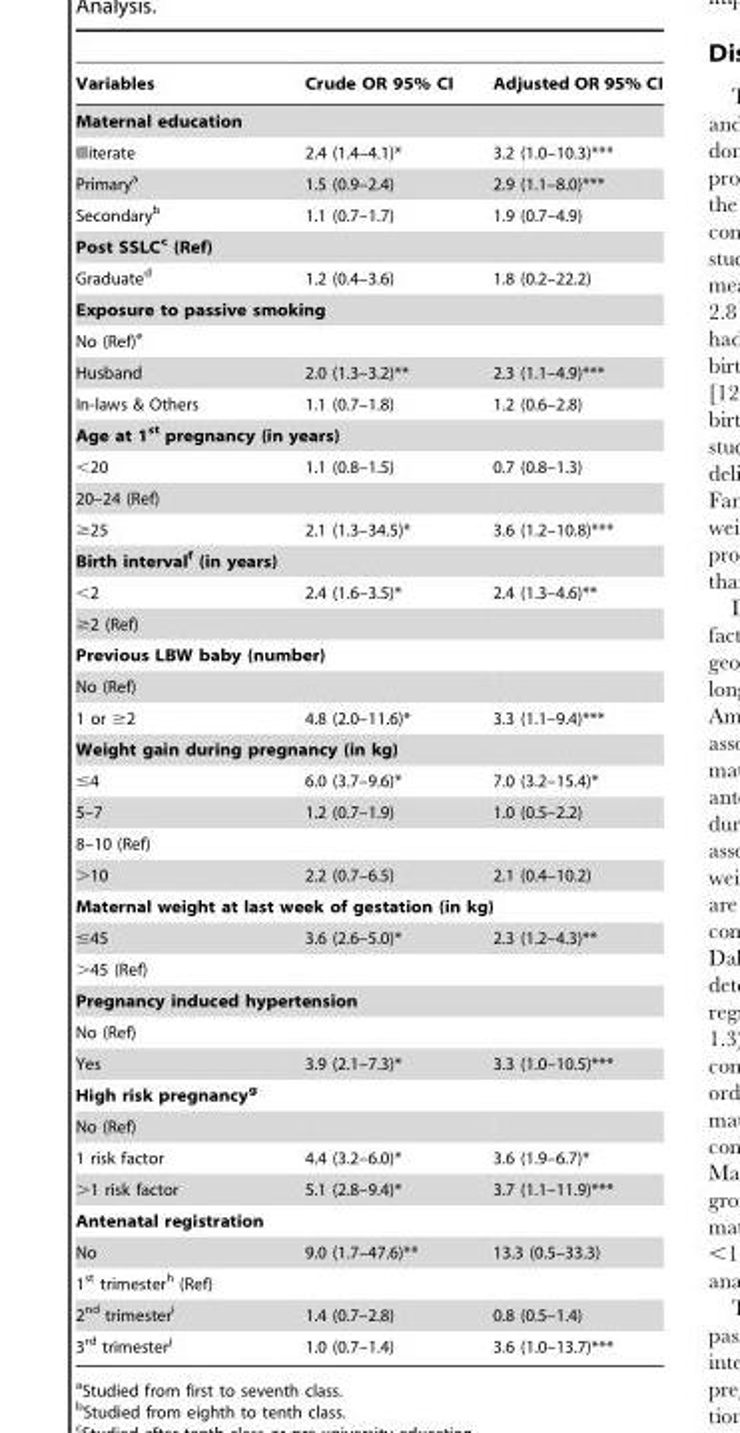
<table><thead><tr><td>Variables</td><td>Crude OR 95% CI</td><td>Adjusted OR 95% CI</td></tr></thead><tbody><tr><td colspan="3">Maternal education</td></tr><tr><td>Illiterate</td><td>2.4 (1.4–4.1)*</td><td>3.2 (1.0–10.3)***</td></tr><tr><td>Primary<sup>a</sup></td><td>1.5 (0.9–2.4)</td><td>2.9 (1.1–8.0)***</td></tr><tr><td>Secondary<sup>b</sup></td><td>1.1 (0.7–1.7)</td><td>1.9 (0.7–4.9)</td></tr><tr><td colspan="3">Post SSLCc (Ref)</td></tr><tr><td>Graduate<sup>d</sup></td><td>1.2 (0.4–3.6)</td><td>1.8 (0.2–22.2)</td></tr><tr><td colspan="3">Exposure to passive smoking</td></tr><tr><td colspan="3">No (Ref)<sup>e</sup></td></tr><tr><td>Husband</td><td>2.0 (1.3–3.2)**</td><td>2.3 (1.1–4.9)***</td></tr><tr><td>In-laws &amp; Others</td><td>1.1 (0.7–1.8)</td><td>1.2 (0.6–2.8)</td></tr><tr><td colspan="3">Age at 1<sup>st</sup> pregnancy (in years)</td></tr><tr><td>&lt;20</td><td>1.1 (0.8–1.5)</td><td>0.7 (0.8–1.3)</td></tr><tr><td colspan="3">20–24 (Ref)</td></tr><tr><td>≥25</td><td>2.1 (1.3–34.5)*</td><td>3.6 (1.2–10.8)***</td></tr><tr><td colspan="3">Birth intervalf (in years)</td></tr><tr><td>&lt;2</td><td>2.4 (1.6–3.5)*</td><td>2.4 (1.3–4.6)**</td></tr><tr><td colspan="3">≥2 (Ref)</td></tr><tr><td colspan="3">Previous LBW baby (number)</td></tr><tr><td colspan="3">No (Ref)</td></tr><tr><td>1 or ≥2</td><td>4.8 (2.0–11.6)*</td><td>3.3 (1.1–9.4)***</td></tr><tr><td colspan="3">Weight gain during pregnancy (in kg)</td></tr><tr><td>≤4</td><td>6.0 (3.7–9.6)*</td><td>7.0 (3.2–15.4)*</td></tr><tr><td>5–7</td><td>1.2 (0.7–1.9)</td><td>1.0 (0.5–2.2)</td></tr><tr><td colspan="3">8–10 (Ref)</td></tr><tr><td>&gt;10</td><td>2.2 (0.7–6.5)</td><td>2.1 (0.4–10.2)</td></tr><tr><td colspan="3">Maternal weight at last week of gestation (in kg)</td></tr><tr><td>≤45</td><td>3.6 (2.6–5.0)*</td><td>2.3 (1.2–4.3)**</td></tr><tr><td colspan="3">&gt;45 (Ref)</td></tr><tr><td colspan="3">Pregnancy induced hypertension</td></tr><tr><td colspan="3">No (Ref)</td></tr><tr><td>Yes</td><td>3.9 (2.1–7.3)*</td><td>3.3 (1.0–10.5)***</td></tr><tr><td colspan="3">High risk pregnancyg</td></tr><tr><td colspan="3">No (Ref)</td></tr><tr><td>1 risk factor</td><td>4.4 (3.2–6.0)*</td><td>3.6 (1.9–6.7)*</td></tr><tr><td>&gt;1 risk factor</td><td>5.1 (2.8–9.4)*</td><td>3.7 (1.1–11.9)***</td></tr><tr><td colspan="3">Antenatal registration</td></tr><tr><td>No</td><td>9.0 (1.7–47.6)**</td><td>13.3 (0.5–33.3)</td></tr><tr><td colspan="3">1<sup>st</sup> trimester<sup>h</sup> (Ref)</td></tr><tr><td>2<sup>nd</sup> trimester<sup>i</sup></td><td>1.4 (0.7–2.8)</td><td>0.8 (0.5–1.4)</td></tr><tr><td>3<sup>rd</sup> trimester<sup>j</sup></td><td>1.0 (0.7–1.4)</td><td>3.6 (1.0–13.7)***</td></tr></tbody></table>